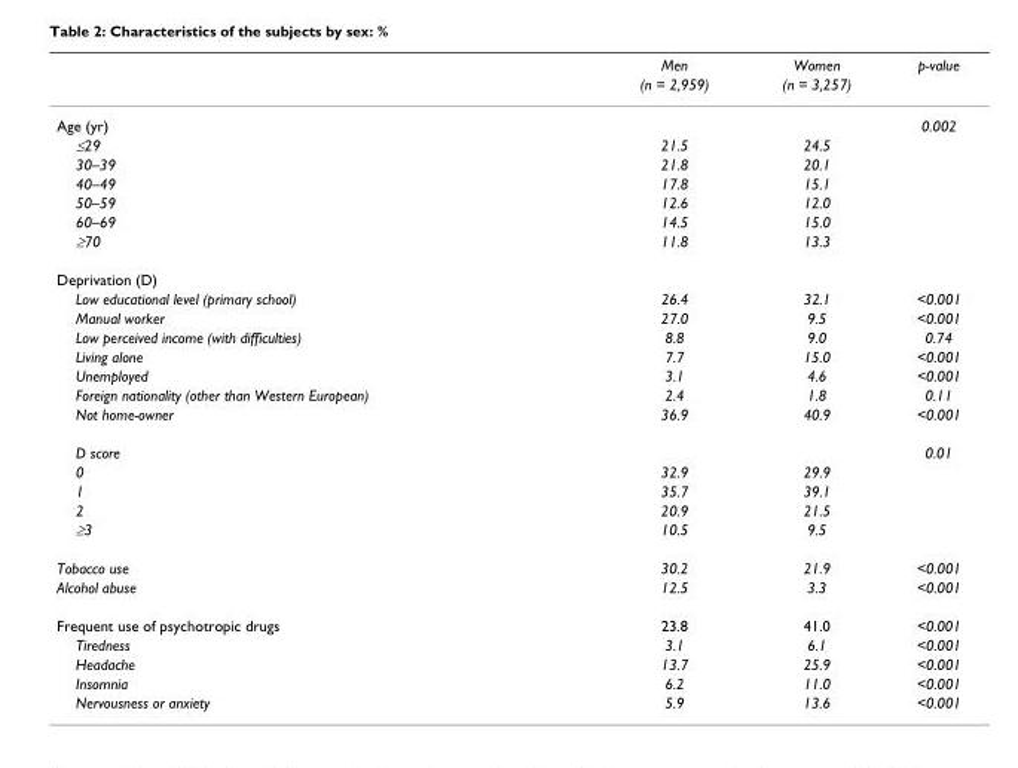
<table><thead><tr><td rowspan="2"></td><td rowspan="2">Men (n = 2,959)</td><td rowspan="2">Women (n = 3,257)</td><td rowspan="2">p-value</td></tr><tr></tr></thead><tbody><tr><td>Age (yr)</td><td></td><td></td><td>0.002</td></tr><tr><td>≤29</td><td>21.5</td><td>24.5</td><td></td></tr><tr><td>30–39</td><td>21.8</td><td>20.1</td><td></td></tr><tr><td>40–49</td><td>17.8</td><td>15.1</td><td></td></tr><tr><td>50–59</td><td>12.6</td><td>12.0</td><td></td></tr><tr><td>60–69</td><td>14.5</td><td>15.0</td><td></td></tr><tr><td>≥70</td><td>11.8</td><td>13.3</td><td></td></tr><tr><td colspan="4">Deprivation (D)</td></tr><tr><td>Low educational level (primary school)</td><td>26.4</td><td>32.1</td><td>&lt;0.001</td></tr><tr><td>Manual worker</td><td>27.0</td><td>9.5</td><td>&lt;0.001</td></tr><tr><td>Low perceived income (with difficulties)</td><td>8.8</td><td>9.0</td><td>0.74</td></tr><tr><td>Living alone</td><td>7.7</td><td>15.0</td><td>&lt;0.001</td></tr><tr><td>Unemployed</td><td>3.1</td><td>4.6</td><td>&lt;0.001</td></tr><tr><td>Foreign nationality (other than Western European)</td><td>2.4</td><td>1.8</td><td>0.11</td></tr><tr><td>Not home-owner</td><td>36.9</td><td>40.9</td><td>&lt;0.001</td></tr><tr><td>D score</td><td></td><td></td><td>0.01</td></tr><tr><td>0</td><td>32.9</td><td>29.9</td><td></td></tr><tr><td>1</td><td>35.7</td><td>39.1</td><td></td></tr><tr><td>2</td><td>20.9</td><td>21.5</td><td></td></tr><tr><td>≥3</td><td>10.5</td><td>9.5</td><td></td></tr><tr><td>Tobacco use</td><td>30.2</td><td>21.9</td><td>&lt;0.001</td></tr><tr><td>Alcohol abuse</td><td>12.5</td><td>3.3</td><td>&lt;0.001</td></tr><tr><td>Frequent use of psychotropic drugs</td><td>23.8</td><td>41.0</td><td>&lt;0.001</td></tr><tr><td>Tiredness</td><td>3.1</td><td>6.1</td><td>&lt;0.001</td></tr><tr><td>Headache</td><td>13.7</td><td>25.9</td><td>&lt;0.001</td></tr><tr><td>Insomnia</td><td>6.2</td><td>11.0</td><td>&lt;0.001</td></tr><tr><td>Nervousness or anxiety</td><td>5.9</td><td>13.6</td><td>&lt;0.001</td></tr></tbody></table>